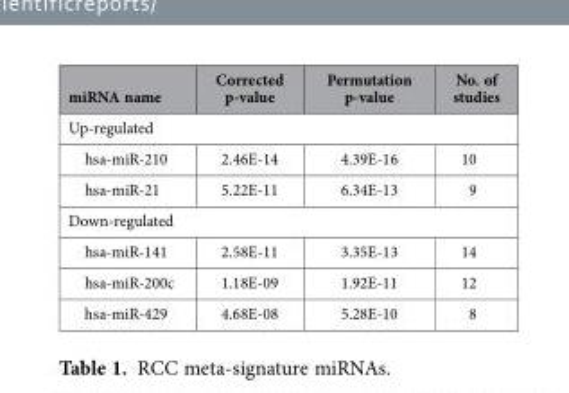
<table><thead><tr><td>miRNA name</td><td>Corrected p-value</td><td>Permutation p-value</td><td>No. of studies</td></tr></thead><tbody><tr><td colspan="4">Up-regulated</td></tr><tr><td>hsa-miR-210</td><td>2.46E-14</td><td>4.39E-16</td><td>10</td></tr><tr><td>hsa-miR-21</td><td>5.22E-11</td><td>6.34E-13</td><td>9</td></tr><tr><td colspan="4">Down-regulated</td></tr><tr><td>hsa-miR-141</td><td>2.58E-11</td><td>3.35E-13</td><td>14</td></tr><tr><td>hsa-miR-200c</td><td>1.18E-09</td><td>1.92E-11</td><td>12</td></tr><tr><td>hsa-miR-429</td><td>4.68E-08</td><td>5.28E-10</td><td>8</td></tr></tbody></table>